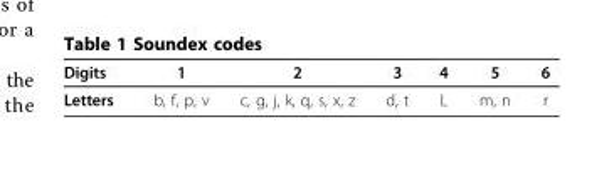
<table><thead><tr><td>Digits</td><td>1</td><td>2</td><td>3</td><td>4</td><td>5</td><td>6</td></tr></thead><tbody><tr><td>Letters</td><td>b, f, p, v</td><td>c, g, j, k, q, s, x, z</td><td>d, t</td><td>L</td><td>m, n</td><td>r</td></tr></tbody></table>